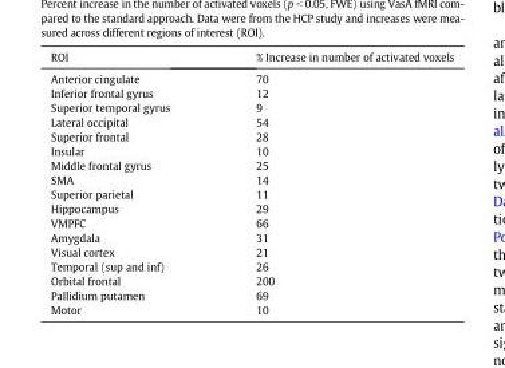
<table><thead><tr><td>ROI</td><td>% Increase in number of activated voxels</td></tr></thead><tbody><tr><td>Anterior cingulate</td><td>70</td></tr><tr><td>Inferior frontal gyrus</td><td>12</td></tr><tr><td>Superior temporal gyrus</td><td>9</td></tr><tr><td>Lateral occipital</td><td>54</td></tr><tr><td>Superior frontal</td><td>28</td></tr><tr><td>Insular</td><td>10</td></tr><tr><td>Middle frontal gyrus</td><td>25</td></tr><tr><td>SMA</td><td>14</td></tr><tr><td>Superior parietal</td><td>11</td></tr><tr><td>Hippocampus</td><td>29</td></tr><tr><td>VMPFC</td><td>66</td></tr><tr><td>Amygdala</td><td>31</td></tr><tr><td>Visual cortex</td><td>21</td></tr><tr><td>Temporal (sup and inf)</td><td>26</td></tr><tr><td>Orbital frontal</td><td>200</td></tr><tr><td>Pallidium putamen</td><td>69</td></tr><tr><td>Motor</td><td>10</td></tr></tbody></table>